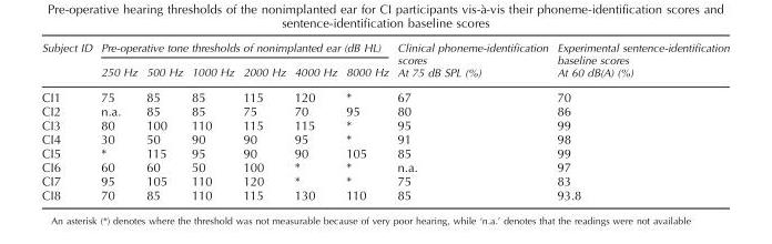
<table><thead><tr><td rowspan="2">Subject ID</td><td colspan="6">Pre-operative tone thresholds of nonimplanted ear (dB HL)</td><td rowspan="2">Clinical phoneme-identification scores At 75 dB SPL (%)</td><td rowspan="2">Experimental sentence-identification baseline scores At 60 dB(A) (%)</td></tr><tr><td>250 Hz</td><td>500 Hz</td><td>1000 Hz</td><td>2000 Hz</td><td>4000 Hz</td><td>8000 Hz</td></tr></thead><tbody><tr><td>CI1</td><td>75</td><td>85</td><td>85</td><td>115</td><td>120</td><td>*</td><td>67</td><td>70</td></tr><tr><td>CI2</td><td>n.a.</td><td>85</td><td>85</td><td>75</td><td>70</td><td>95</td><td>80</td><td>86</td></tr><tr><td>CI3</td><td>80</td><td>100</td><td>110</td><td>115</td><td>115</td><td>*</td><td>95</td><td>99</td></tr><tr><td>CI4</td><td>30</td><td>50</td><td>90</td><td>90</td><td>95</td><td>*</td><td>91</td><td>98</td></tr><tr><td>CI5</td><td>*</td><td>115</td><td>95</td><td>90</td><td>90</td><td>105</td><td>85</td><td>99</td></tr><tr><td>CI6</td><td>60</td><td>60</td><td>50</td><td>100</td><td>*</td><td>*</td><td>n.a.</td><td>97</td></tr><tr><td>CI7</td><td>95</td><td>105</td><td>110</td><td>120</td><td>*</td><td>*</td><td>75</td><td>83</td></tr><tr><td>CI8</td><td>70</td><td>85</td><td>110</td><td>115</td><td>130</td><td>110</td><td>85</td><td>93.8</td></tr></tbody></table>